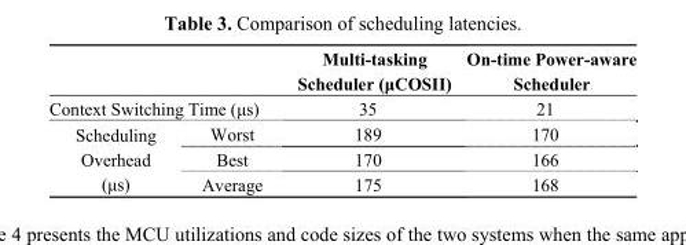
<table><thead><tr><td></td><td></td><td>Multi-tasking Scheduler (μCOSII)</td><td>On-time Power-aware Scheduler</td></tr></thead><tbody><tr><td colspan="2">Context Switching Time (μs)</td><td>35</td><td>21</td></tr><tr><td rowspan="3">Scheduling Overhead (μs)</td><td>Worst</td><td>189</td><td>170</td></tr><tr><td>Best</td><td>170</td><td>166</td></tr><tr><td>Average</td><td>175</td><td>168</td></tr></tbody></table>